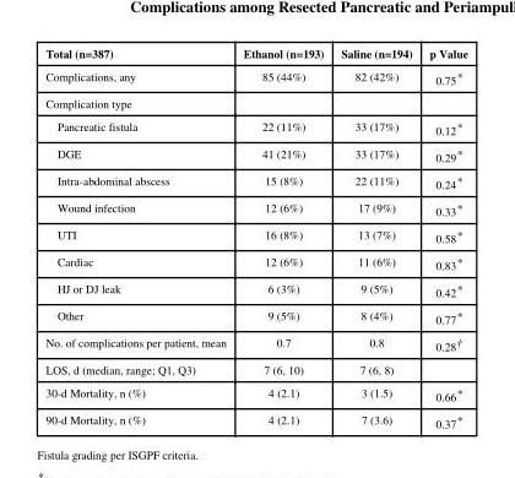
<table><thead><tr><td>Total (n=387)</td><td>Ethanol (n=193)</td><td>Saline (n=194)</td><td>p Value</td></tr></thead><tbody><tr><td>Complications, any</td><td>85 (44%)</td><td>82 (42%)</td><td>0.75*</td></tr><tr><td colspan="4">Complication type</td></tr><tr><td>Pancreatic fistula</td><td>22 (11%)</td><td>33 (17%)</td><td>0.12*</td></tr><tr><td>DGE</td><td>41 (21%)</td><td>33 (17%)</td><td>0.29*</td></tr><tr><td>Intra-abdominal abscess</td><td>15 (8%)</td><td>22 (11%)</td><td>0.24*</td></tr><tr><td>Wound infection</td><td>12 (6%)</td><td>17 (9%)</td><td>0.33*</td></tr><tr><td>UTI</td><td>16 (8%)</td><td>13 (7%)</td><td>0.58*</td></tr><tr><td>Cardiac</td><td>12 (6%)</td><td>11 (6%)</td><td>0.83*</td></tr><tr><td>HJ or DJ leak</td><td>6 (3%)</td><td>9 (5%)</td><td>0.42*</td></tr><tr><td>Other</td><td>9 (5%)</td><td>8 (4%)</td><td>0.77*</td></tr><tr><td>No. of complications per patient, mean</td><td>0.7</td><td>0.8</td><td>0.28†</td></tr><tr><td>LOS, d (median, range; Q1, Q3)</td><td>7 (6, 10)</td><td>7 (6, 8)</td><td></td></tr><tr><td>30-d Mortality, n (%)</td><td>4 (2.1)</td><td>3 (1.5)</td><td>0.66*</td></tr><tr><td>90-d Mortality, n (%)</td><td>4 (2.1)</td><td>7 (3.6)</td><td>0.37*</td></tr></tbody></table>